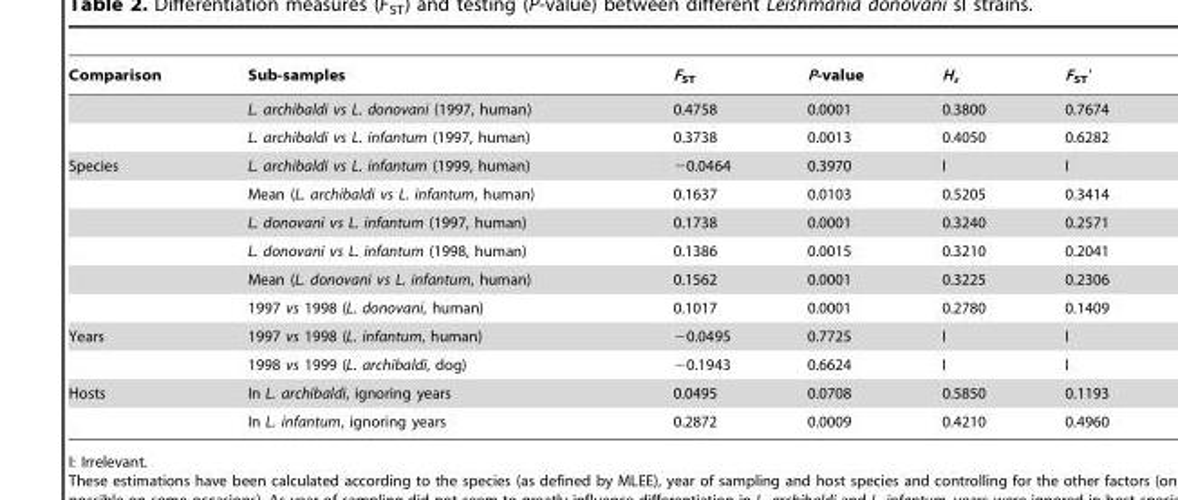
<table><thead><tr><td>Comparison</td><td>Sub-samples</td><td>F<sub>ST</sub></td><td>P-value</td><td>H<sub>s</sub></td><td>F<sub>ST</sub>′</td></tr></thead><tbody><tr><td></td><td>L. archibaldi vs L. donovani (1997, human)</td><td>0.4758</td><td>0.0001</td><td>0.3800</td><td>0.7674</td></tr><tr><td></td><td>L. archibaldi vs L. infantum (1997, human)</td><td>0.3738</td><td>0.0013</td><td>0.4050</td><td>0.6282</td></tr><tr><td rowspan="6">Species</td><td>L. archibaldi vs L. infantum (1999, human)</td><td>−0.0464</td><td>0.3970</td><td>I</td><td>I</td></tr><tr><td>Mean (L. archibaldi vs L. infantum, human)</td><td>0.1637</td><td>0.0103</td><td>0.5205</td><td>0.3414</td></tr><tr><td>L. donovani vs L. infantum (1997, human)</td><td>0.1738</td><td>0.0001</td><td>0.3240</td><td>0.2571</td></tr><tr><td>L. donovani vs L. infantum (1998, human)</td><td>0.1386</td><td>0.0015</td><td>0.3210</td><td>0.2041</td></tr><tr><td>Mean (L. donovani vs L. infantum, human)</td><td>0.1562</td><td>0.0001</td><td>0.3225</td><td>0.2306</td></tr><tr><td>1997 vs 1998 (L. donovani, human)</td><td>0.1017</td><td>0.0001</td><td>0.2780</td><td>0.1409</td></tr><tr><td rowspan="2">Years</td><td>1997 vs 1998 (L. infantum, human)</td><td>−0.0495</td><td>0.7725</td><td>I</td><td>I</td></tr><tr><td>1998 vs 1999 (L. archibaldi, dog)</td><td>−0.1943</td><td>0.6624</td><td>I</td><td>I</td></tr><tr><td rowspan="2">Hosts</td><td>In L. archibaldi, ignoring years</td><td>0.0495</td><td>0.0708</td><td>0.5850</td><td>0.1193</td></tr><tr><td>In L. infantum, ignoring years</td><td>0.2872</td><td>0.0009</td><td>0.4210</td><td>0.4960</td></tr></tbody></table>